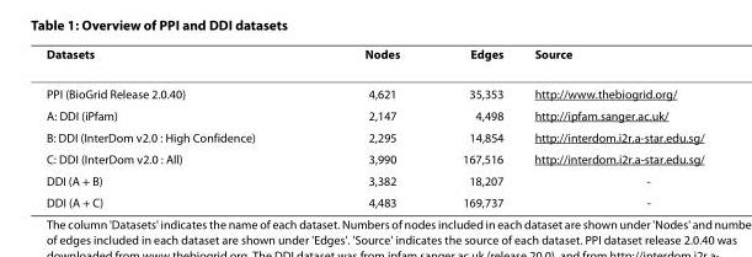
<table><thead><tr><td>Datasets</td><td>Nodes</td><td>Edges</td><td>Source</td></tr></thead><tbody><tr><td>PPI (BioGrid Release 2.0.40)</td><td>4,621</td><td>35,353</td><td>http://www.thebiogrid.org/</td></tr><tr><td>A: DDI (iPfam)</td><td>2,147</td><td>4,498</td><td>http://ipfam.sanger.ac.uk/</td></tr><tr><td>B: DDI (InterDom v2.0 : High Confidence)</td><td>2,295</td><td>14,854</td><td>http://interdom.i2r.a-star.edu.sg/</td></tr><tr><td>C: DDI (InterDom v2.0 : All)</td><td>3,990</td><td>167,516</td><td>http://interdom.i2r.a-star.edu.sg/</td></tr><tr><td>DDI (A + B)</td><td>3,382</td><td>18,207</td><td>-</td></tr><tr><td>DDI (A + C)</td><td>4,483</td><td>169,737</td><td>-</td></tr></tbody></table>